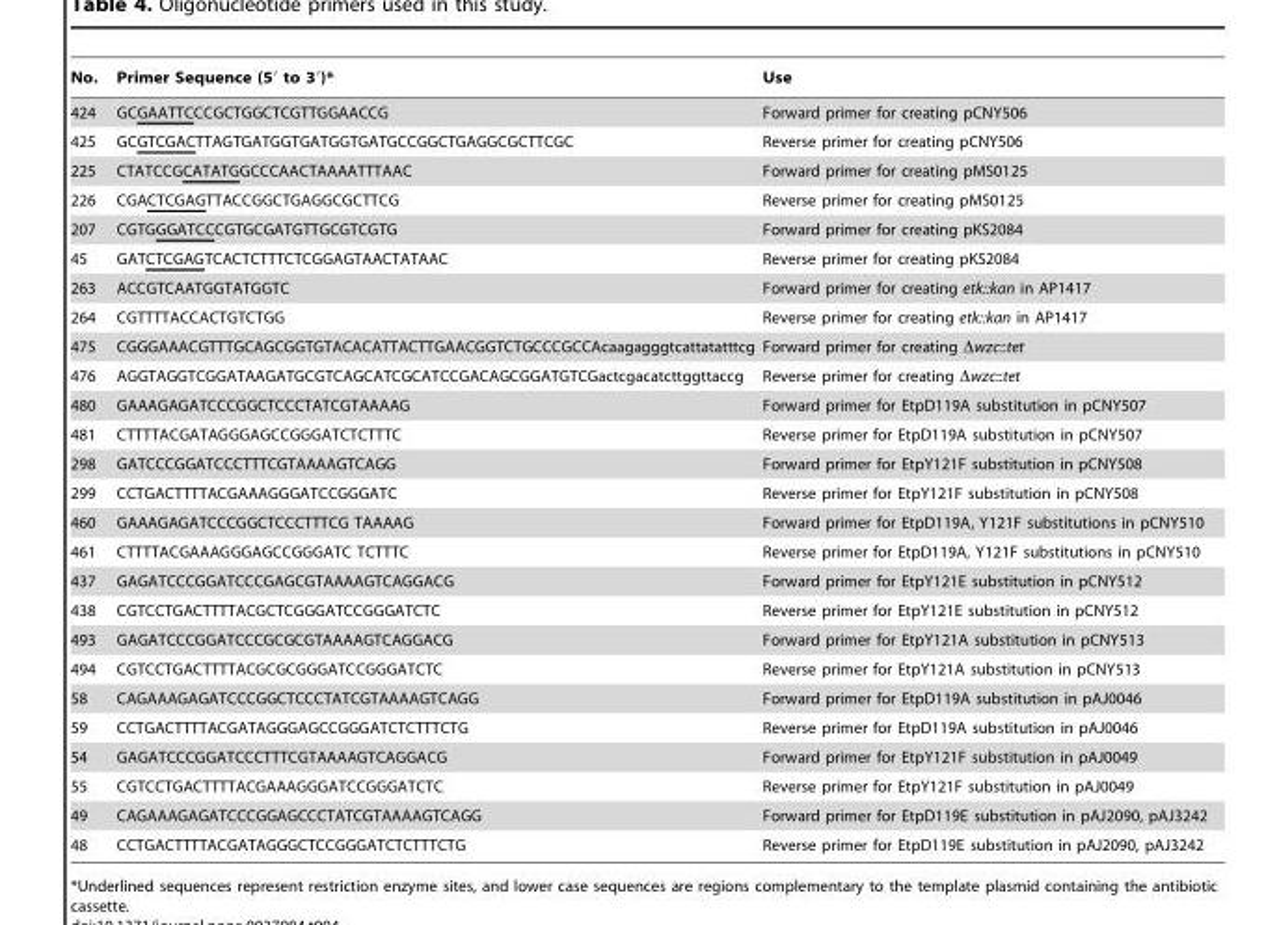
<table><thead><tr><td>No.</td><td>Primer Sequence (5′ to 3′)*</td><td>Use</td></tr></thead><tbody><tr><td>424</td><td>GCGAATTCCCGCTGGCTCGTTGGAACCG</td><td>Forward primer for creating pCNY506</td></tr><tr><td>425</td><td>GCGTCGACTTAGTGATGGTGATGGTGATGCCGGCTGAGGCGCTTCGC</td><td>Reverse primer for creating pCNY506</td></tr><tr><td>225</td><td>CTATCCGCATATGGCCCAACTAAAATTTAAC</td><td>Forward primer for creating pMS0125</td></tr><tr><td>226</td><td>CGACTCGAGTTACCGGCTGAGGCGCTTCG</td><td>Reverse primer for creating pMS0125</td></tr><tr><td>207</td><td>CGTGGGATCCCGTGCGATGTTGCGTCGTG</td><td>Forward primer for creating pKS2084</td></tr><tr><td>45</td><td>GATCTCGAGTCACTCTTTCTCGGAGTAACTATAAC</td><td>Reverse primer for creating pKS2084</td></tr><tr><td>263</td><td>ACCGTCAATGGTATGGTC</td><td>Forward primer for creating etk::kan in AP1417</td></tr><tr><td>264</td><td>CGTTTTACCACTGTCTGG</td><td>Reverse primer for creating etk::kan in AP1417</td></tr><tr><td>475</td><td>CGGGAAACGTTTGCAGCGGTGTACACATTACTTGAACGGTCTGCCCGCCAcaagagggtcattatatttcg</td><td>Forward primer for creating Δwzc::tet</td></tr><tr><td>476</td><td>AGGTAGGTCGGATAAGATGCGTCAGCATCGCATCCGACAGCGGATGTCGactcgacatcttggttaccg</td><td>Reverse primer for creating Δwzc::tet</td></tr><tr><td>480</td><td>GAAAGAGATCCCGGCTCCCTATCGTAAAAG</td><td>Forward primer for EtpD119A substitution in pCNY507</td></tr><tr><td>481</td><td>CTTTTACGATAGGGAGCCGGGATCTCTTTC</td><td>Reverse primer for EtpD119A substitution in pCNY507</td></tr><tr><td>298</td><td>GATCCCGGATCCCTTTCGTAAAAGTCAGG</td><td>Forward primer for EtpY121F substitution in pCNY508</td></tr><tr><td>299</td><td>CCTGACTTTTACGAAAGGGATCCGGGATC</td><td>Reverse primer for EtpY121F substitution in pCNY508</td></tr><tr><td>460</td><td>GAAAGAGATCCCGGCTCCCTTTCG TAAAAG</td><td>Forward primer for EtpD119A, Y121F substitutions in pCNY510</td></tr><tr><td>461</td><td>CTTTTACGAAAGGGAGCCGGGATC TCTTTC</td><td>Reverse primer for EtpD119A, Y121F substitutions in pCNY510</td></tr><tr><td>437</td><td>GAGATCCCGGATCCCGAGCGTAAAAGTCAGGACG</td><td>Forward primer for EtpY121E substitution in pCNY512</td></tr><tr><td>438</td><td>CGTCCTGACTTTTACGCTCGGGATCCGGGATCTC</td><td>Reverse primer for EtpY121E substitution in pCNY512</td></tr><tr><td>493</td><td>GAGATCCCGGATCCCGCGCGTAAAAGTCAGGACG</td><td>Forward primer for EtpY121A substitution in pCNY513</td></tr><tr><td>494</td><td>CGTCCTGACTTTTACGCGCGGGATCCGGGATCTC</td><td>Reverse primer for EtpY121A substitution in pCNY513</td></tr><tr><td>58</td><td>CAGAAAGAGATCCCGGCTCCCTATCGTAAAAGTCAGG</td><td>Forward primer for EtpD119A substitution in pAJ0046</td></tr><tr><td>59</td><td>CCTGACTTTTACGATAGGGAGCCGGGATCTCTTTCTG</td><td>Reverse primer for EtpD119A substitution in pAJ0046</td></tr><tr><td>54</td><td>GAGATCCCGGATCCCTTTCGTAAAAGTCAGGACG</td><td>Forward primer for EtpY121F substitution in pAJ0049</td></tr><tr><td>55</td><td>CGTCCTGACTTTTACGAAAGGGATCCGGGATCTC</td><td>Reverse primer for EtpY121F substitution in pAJ0049</td></tr><tr><td>49</td><td>CAGAAAGAGATCCCGGAGCCCTATCGTAAAAGTCAGG</td><td>Forward primer for EtpD119E substitution in pAJ2090, pAJ3242</td></tr><tr><td>48</td><td>CCTGACTTTTACGATAGGGCTCCGGGATCTCTTTCTG</td><td>Reverse primer for EtpD119E substitution in pAJ2090, pAJ3242</td></tr></tbody></table>